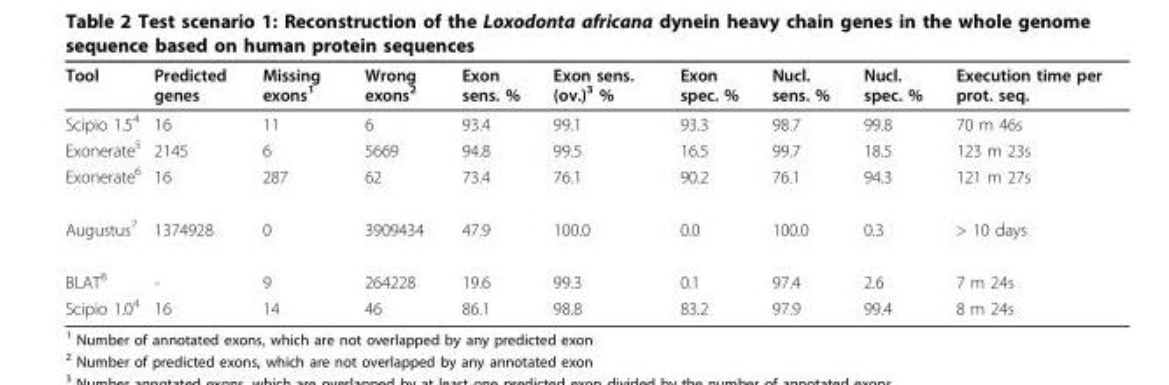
<table><thead><tr><td>Tool</td><td>Predicted genes</td><td>Missing exons<sup>1</sup></td><td>Wrong exons<sup>2</sup></td><td>Exon sens. %</td><td>Exon sens. (ov.)<sup>3</sup> %</td><td>Exon spec. %</td><td>Nucl. sens. %</td><td>Nucl. spec. %</td><td>Execution time per prot. seq.</td></tr></thead><tbody><tr><td>Scipio 1.5<sup>4</sup></td><td>16</td><td>11</td><td>6</td><td>93.4</td><td>99.1</td><td>93.3</td><td>98.7</td><td>99.8</td><td>70 m 46s</td></tr><tr><td>Exonerate<sup>5</sup></td><td>2145</td><td>6</td><td>5669</td><td>94.8</td><td>99.5</td><td>16.5</td><td>99.7</td><td>18.5</td><td>123 m 23s</td></tr><tr><td>Exonerate<sup>6</sup></td><td>16</td><td>287</td><td>62</td><td>73.4</td><td>76.1</td><td>90.2</td><td>76.1</td><td>94.3</td><td>121 m 27s</td></tr><tr><td>Augustus<sup>7</sup></td><td>1374928</td><td>0</td><td>3909434</td><td>47.9</td><td>100.0</td><td>0.0</td><td>100.0</td><td>0.3</td><td>&gt; 10 days</td></tr><tr><td>BLAT<sup>8</sup></td><td>-</td><td>9</td><td>264228</td><td>19.6</td><td>99.3</td><td>0.1</td><td>97.4</td><td>2.6</td><td>7 m 24s</td></tr><tr><td>Scipio 1.0<sup>4</sup></td><td>16</td><td>14</td><td>46</td><td>86.1</td><td>98.8</td><td>83.2</td><td>97.9</td><td>99.4</td><td>8 m 24s</td></tr></tbody></table>